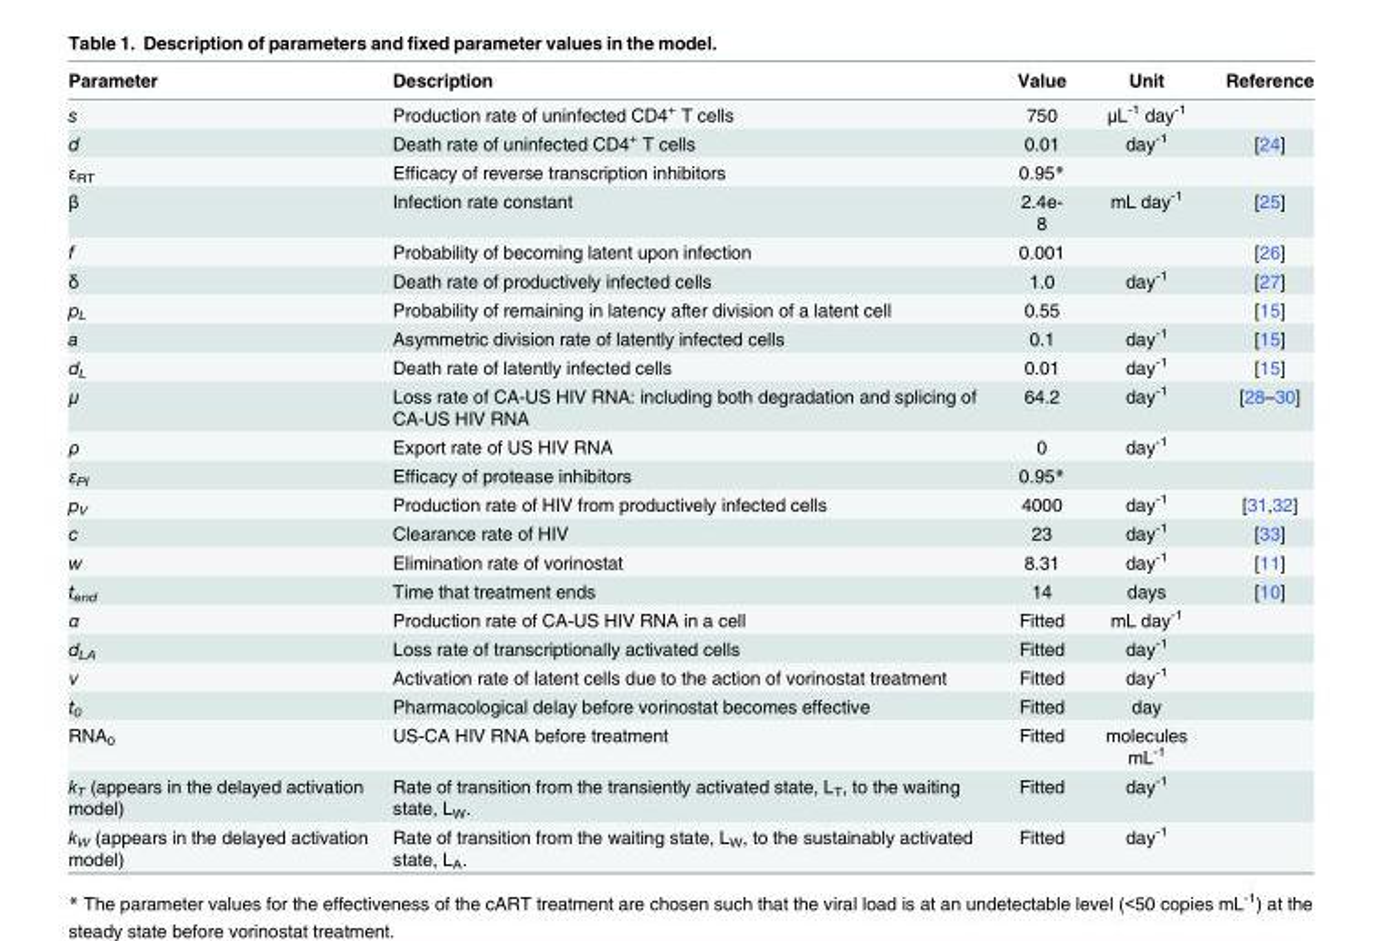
<table><thead><tr><td>Parameter</td><td>Description</td><td>Value</td><td>Unit</td><td>Reference</td></tr></thead><tbody><tr><td>s</td><td>Production rate of uninfected CD4<sup>+</sup> T cells</td><td>750</td><td>μL<sup>-1</sup> day<sup>-1</sup></td><td></td></tr><tr><td>d</td><td>Death rate of uninfected CD4<sup>+</sup> T cells</td><td>0.01</td><td>day<sup>-1</sup></td><td>[24]</td></tr><tr><td>ε<sub>RT</sub></td><td>Efficacy of reverse transcription inhibitors</td><td>0.95*</td><td></td><td></td></tr><tr><td>β</td><td>Infection rate constant</td><td>2.4e- 8</td><td>mL day<sup>-1</sup></td><td>[25]</td></tr><tr><td>f</td><td>Probability of becoming latent upon infection</td><td>0.001</td><td></td><td>[26]</td></tr><tr><td>δ</td><td>Death rate of productively infected cells</td><td>1.0</td><td>day<sup>-1</sup></td><td>[27]</td></tr><tr><td>p<sub>L</sub></td><td>Probability of remaining in latency after division of a latent cell</td><td>0.55</td><td></td><td>[15]</td></tr><tr><td>a</td><td>Asymmetric division rate of latently infected cells</td><td>0.1</td><td>day<sup>-1</sup></td><td>[15]</td></tr><tr><td>d<sub>L</sub></td><td>Death rate of latently infected cells</td><td>0.01</td><td>day<sup>-1</sup></td><td>[15]</td></tr><tr><td>μ</td><td>Loss rate of CA-US HIV RNA: including both degradation and splicing of CA-US HIV RNA</td><td>64.2</td><td>day<sup>-1</sup></td><td>[28–30]</td></tr><tr><td>ρ</td><td>Export rate of US HIV RNA</td><td>0</td><td>day<sup>-1</sup></td><td></td></tr><tr><td>ε<sub>PI</sub></td><td>Efficacy of protease inhibitors</td><td>0.95*</td><td></td><td></td></tr><tr><td>p<sub>V</sub></td><td>Production rate of HIV from productively infected cells</td><td>4000</td><td>day<sup>-1</sup></td><td>[31,32]</td></tr><tr><td>c</td><td>Clearance rate of HIV</td><td>23</td><td>day<sup>-1</sup></td><td>[33]</td></tr><tr><td>w</td><td>Elimination rate of vorinostat</td><td>8.31</td><td>day<sup>-1</sup></td><td>[11]</td></tr><tr><td>t<sub>end</sub></td><td>Time that treatment ends</td><td>14</td><td>days</td><td>[10]</td></tr><tr><td>α</td><td>Production rate of CA-US HIV RNA in a cell</td><td>Fitted</td><td>mL day<sup>-1</sup></td><td></td></tr><tr><td>d<sub>LA</sub></td><td>Loss rate of transcriptionally activated cells</td><td>Fitted</td><td>day<sup>-1</sup></td><td></td></tr><tr><td>ν</td><td>Activation rate of latent cells due to the action of vorinostat treatment</td><td>Fitted</td><td>day<sup>-1</sup></td><td></td></tr><tr><td>t<sub>0</sub></td><td>Pharmacological delay before vorinostat becomes effective</td><td>Fitted</td><td>day</td><td></td></tr><tr><td>RNA<sub>0</sub></td><td>US-CA HIV RNA before treatment</td><td>Fitted</td><td>molecules mL<sup>-1</sup></td><td></td></tr><tr><td>k<sub>T</sub> (appears in the delayed activation model)</td><td>Rate of transition from the transiently activated state, L<sub>T</sub>, to the waiting state, L<sub>W</sub>.</td><td>Fitted</td><td>day<sup>-1</sup></td><td></td></tr><tr><td>k<sub>W</sub> (appears in the delayed activation model)</td><td>Rate of transition from the waiting state, L<sub>W</sub>, to the sustainably activated state, L<sub>A</sub>.</td><td>Fitted</td><td>day<sup>-1</sup></td><td></td></tr></tbody></table>